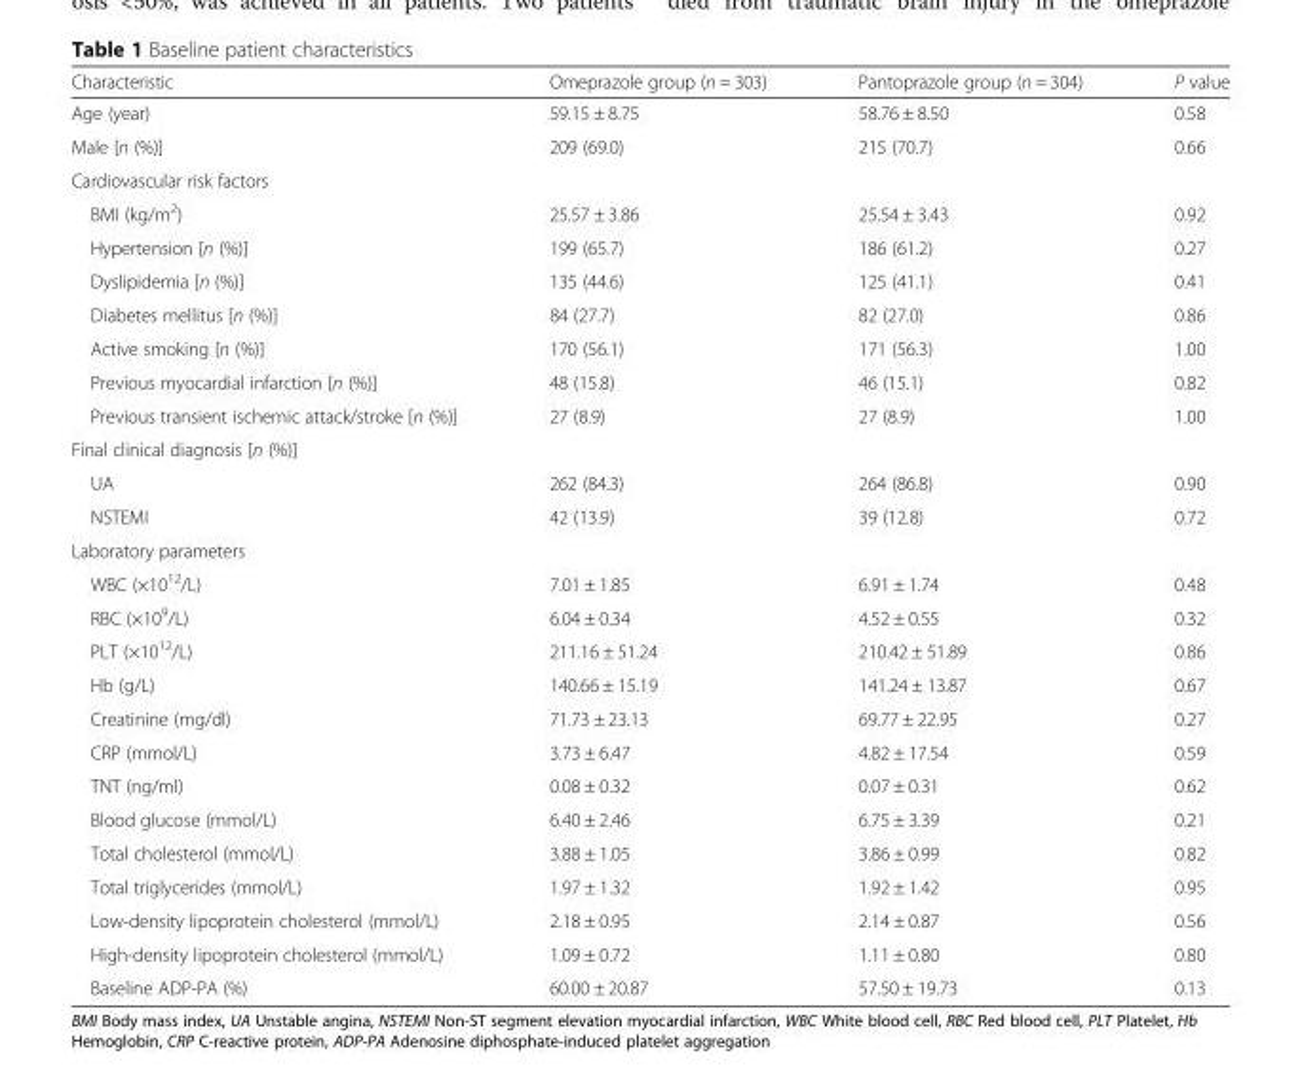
<table><thead><tr><td>Characteristic</td><td>Omeprazole group (n = 303)</td><td>Pantoprazole group (n = 304)</td><td>P value</td></tr></thead><tbody><tr><td>Age (year)</td><td>59.15 ± 8.75</td><td>58.76 ± 8.50</td><td>0.58</td></tr><tr><td>Male [n (%)]</td><td>209 (69.0)</td><td>215 (70.7)</td><td>0.66</td></tr><tr><td colspan="4">Cardiovascular risk factors</td></tr><tr><td>BMI (kg/m<sup>2</sup>)</td><td>25.57 ± 3.86</td><td>25.54 ± 3.43</td><td>0.92</td></tr><tr><td>Hypertension [n (%)]</td><td>199 (65.7)</td><td>186 (61.2)</td><td>0.27</td></tr><tr><td>Dyslipidemia [n (%)]</td><td>135 (44.6)</td><td>125 (41.1)</td><td>0.41</td></tr><tr><td>Diabetes mellitus [n (%)]</td><td>84 (27.7)</td><td>82 (27.0)</td><td>0.86</td></tr><tr><td>Active smoking [n (%)]</td><td>170 (56.1)</td><td>171 (56.3)</td><td>1.00</td></tr><tr><td>Previous myocardial infarction [n (%)]</td><td>48 (15.8)</td><td>46 (15.1)</td><td>0.82</td></tr><tr><td>Previous transient ischemic attack/stroke [n (%)]</td><td>27 (8.9)</td><td>27 (8.9)</td><td>1.00</td></tr><tr><td colspan="4">Final clinical diagnosis [n (%)]</td></tr><tr><td>UA</td><td>262 (84.3)</td><td>264 (86.8)</td><td>0.90</td></tr><tr><td>NSTEMI</td><td>42 (13.9)</td><td>39 (12.8)</td><td>0.72</td></tr><tr><td colspan="4">Laboratory parameters</td></tr><tr><td>WBC (×10<sup>12</sup>/L)</td><td>7.01 ± 1.85</td><td>6.91 ± 1.74</td><td>0.48</td></tr><tr><td>RBC (×10<sup>9</sup>/L)</td><td>6.04 ± 0.34</td><td>4.52 ± 0.55</td><td>0.32</td></tr><tr><td>PLT (×10<sup>12</sup>/L)</td><td>211.16 ± 51.24</td><td>210.42 ± 51.89</td><td>0.86</td></tr><tr><td>Hb (g/L)</td><td>140.66 ± 15.19</td><td>141.24 ± 13.87</td><td>0.67</td></tr><tr><td>Creatinine (mg/dl)</td><td>71.73 ± 23.13</td><td>69.77 ± 22.95</td><td>0.27</td></tr><tr><td>CRP (mmol/L)</td><td>3.73 ± 6.47</td><td>4.82 ± 17.54</td><td>0.59</td></tr><tr><td>TNT (ng/ml)</td><td>0.08 ± 0.32</td><td>0.07 ± 0.31</td><td>0.62</td></tr><tr><td>Blood glucose (mmol/L)</td><td>6.40 ± 2.46</td><td>6.75 ± 3.39</td><td>0.21</td></tr><tr><td>Total cholesterol (mmol/L)</td><td>3.88 ± 1.05</td><td>3.86 ± 0.99</td><td>0.82</td></tr><tr><td>Total triglycerides (mmol/L)</td><td>1.97 ± 1.32</td><td>1.92 ± 1.42</td><td>0.95</td></tr><tr><td>Low-density lipoprotein cholesterol (mmol/L)</td><td>2.18 ± 0.95</td><td>2.14 ± 0.87</td><td>0.56</td></tr><tr><td>High-density lipoprotein cholesterol (mmol/L)</td><td>1.09 ± 0.72</td><td>1.11 ± 0.80</td><td>0.80</td></tr><tr><td>Baseline ADP-PA (%)</td><td>60.00 ± 20.87</td><td>57.50 ± 19.73</td><td>0.13</td></tr></tbody></table>